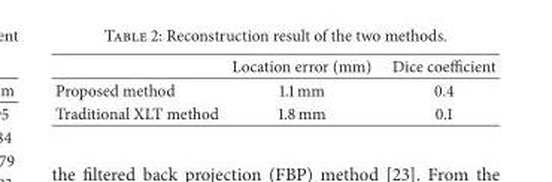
<table><thead><tr><td></td><td>Location error (mm)</td><td>Dice coefficient</td></tr></thead><tbody><tr><td>Proposed method</td><td>1.1 mm</td><td>0.4</td></tr><tr><td>Traditional XLT method</td><td>1.8 mm</td><td>0.1</td></tr></tbody></table>